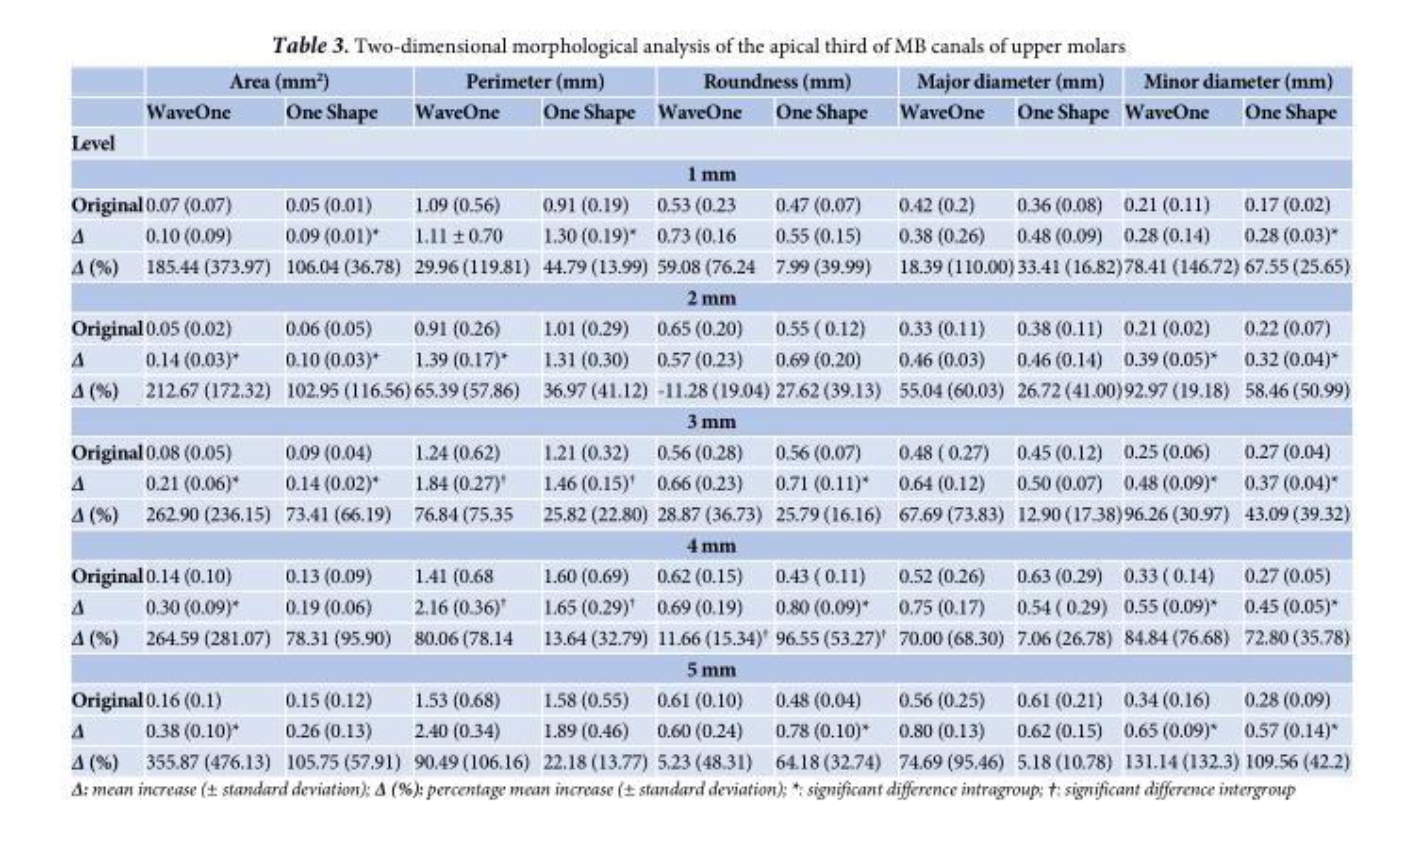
<table><thead><tr><td rowspan="2"></td><td colspan="2">Area (mm<sup>2</sup>)</td><td colspan="2">Perimeter (mm)</td><td colspan="2">Roundness (mm)</td><td colspan="2">Major diameter (mm)</td><td colspan="2">Minor diameter (mm)</td></tr><tr><td>WaveOne</td><td>One Shape</td><td>WaveOne</td><td>One Shape</td><td>WaveOne</td><td>One Shape</td><td>WaveOne</td><td>One Shape</td><td>WaveOne</td><td>One Shape</td></tr></thead><tbody><tr><td colspan="11">Level</td></tr><tr><td colspan="11">1 mm</td></tr><tr><td rowspan="3">Original ∆ ∆ (%)</td><td>0.07 (0.07)</td><td>0.05 (0.01)</td><td>1.09 (0.56)</td><td>0.91 (0.19)</td><td>0.53 (0.23</td><td>0.47 (0.07)</td><td>0.42 (0.2)</td><td>0.36 (0.08)</td><td>0.21 (0.11)</td><td>0.17 (0.02)</td></tr><tr><td>0.10 (0.09)</td><td>0.09 (0.01)*</td><td>1.11 ± 0.70</td><td>1.30 (0.19)*</td><td>0.73 (0.16</td><td>0.55 (0.15)</td><td>0.38 (0.26)</td><td>0.48 (0.09)</td><td>0.28 (0.14)</td><td>0.28 (0.03)*</td></tr><tr><td>185.44 (373.97)</td><td>106.04 (36.78)</td><td>29.96 (119.81)</td><td>44.79 (13.99)</td><td>59.08 (76.24</td><td>7.99 (39.99)</td><td>18.39 (110.00)</td><td>33.41 (16.82)</td><td>78.41 (146.72)</td><td>67.55 (25.65)</td></tr><tr><td colspan="11">2 mm</td></tr><tr><td rowspan="3">Original ∆ ∆ (%)</td><td>0.05 (0.02)</td><td>0.06 (0.05)</td><td>0.91 (0.26)</td><td>1.01 (0.29)</td><td>0.65 (0.20)</td><td>0.55 ( 0.12)</td><td>0.33 (0.11)</td><td>0.38 (0.11)</td><td>0.21 (0.02)</td><td>0.22 (0.07)</td></tr><tr><td>0.14 (0.03)*</td><td>0.10 (0.03)*</td><td>1.39 (0.17)*</td><td>1.31 (0.30)</td><td>0.57 (0.23)</td><td>0.69 (0.20)</td><td>0.46 (0.03)</td><td>0.46 (0.14)</td><td>0.39 (0.05)*</td><td>0.32 (0.04)*</td></tr><tr><td>212.67 (172.32)</td><td>102.95 (116.56)</td><td>65.39 (57.86)</td><td>36.97 (41.12)</td><td>-11.28 (19.04)</td><td>27.62 (39.13)</td><td>55.04 (60.03)</td><td>26.72 (41.00)</td><td>92.97 (19.18)</td><td>58.46 (50.99)</td></tr><tr><td colspan="11">3 mm</td></tr><tr><td rowspan="3">Original ∆ ∆ (%)</td><td>0.08 (0.05)</td><td>0.09 (0.04)</td><td>1.24 (0.62)</td><td>1.21 (0.32)</td><td>0.56 (0.28)</td><td>0.56 (0.07)</td><td>0.48 ( 0.27)</td><td>0.45 (0.12)</td><td>0.25 (0.06)</td><td>0.27 (0.04)</td></tr><tr><td>0.21 (0.06)*</td><td>0.14 (0.02)*</td><td>1.84 (0.27)†</td><td>1.46 (0.15)†</td><td>0.66 (0.23)</td><td>0.71 (0.11)*</td><td>0.64 (0.12)</td><td>0.50 (0.07)</td><td>0.48 (0.09)*</td><td>0.37 (0.04)*</td></tr><tr><td>262.90 (236.15)</td><td>73.41 (66.19)</td><td>76.84 (75.35</td><td>25.82 (22.80)</td><td>28.87 (36.73)</td><td>25.79 (16.16)</td><td>67.69 (73.83)</td><td>12.90 (17.38)</td><td>96.26 (30.97)</td><td>43.09 (39.32)</td></tr><tr><td colspan="11">4 mm</td></tr><tr><td rowspan="3">Original ∆ ∆ (%)</td><td>0.14 (0.10)</td><td>0.13 (0.09)</td><td>1.41 (0.68</td><td>1.60 (0.69)</td><td>0.62 (0.15)</td><td>0.43 ( 0.11)</td><td>0.52 (0.26)</td><td>0.63 (0.29)</td><td>0.33 ( 0.14)</td><td>0.27 (0.05)</td></tr><tr><td>0.30 (0.09)*</td><td>0.19 (0.06)</td><td>2.16 (0.36)†</td><td>1.65 (0.29)†</td><td>0.69 (0.19)</td><td>0.80 (0.09)*</td><td>0.75 (0.17)</td><td>0.54 ( 0.29)</td><td>0.55 (0.09)*</td><td>0.45 (0.05)*</td></tr><tr><td>264.59 (281.07)</td><td>78.31 (95.90)</td><td>80.06 (78.14</td><td>13.64 (32.79)</td><td>11.66 (15.34)†</td><td>96.55 (53.27)†</td><td>70.00 (68.30)</td><td>7.06 (26.78)</td><td>84.84 (76.68)</td><td>72.80 (35.78)</td></tr><tr><td colspan="11">5 mm</td></tr><tr><td rowspan="3">Original ∆ ∆ (%)</td><td>0.16 (0.1)</td><td>0.15 (0.12)</td><td>1.53 (0.68)</td><td>1.58 (0.55)</td><td>0.61 (0.10)</td><td>0.48 (0.04)</td><td>0.56 (0.25)</td><td>0.61 (0.21)</td><td>0.34 (0.16)</td><td>0.28 (0.09)</td></tr><tr><td>0.38 (0.10)*</td><td>0.26 (0.13)</td><td>2.40 (0.34)</td><td>1.89 (0.46)</td><td>0.60 (0.24)</td><td>0.78 (0.10)*</td><td>0.80 (0.13)</td><td>0.62 (0.15)</td><td>0.65 (0.09)*</td><td>0.57 (0.14)*</td></tr><tr><td>355.87 (476.13)</td><td>105.75 (57.91)</td><td>90.49 (106.16)</td><td>22.18 (13.77)</td><td>5.23 (48.31)</td><td>64.18 (32.74)</td><td>74.69 (95.46)</td><td>5.18 (10.78)</td><td>131.14 (132.3)</td><td>109.56 (42.2)</td></tr></tbody></table>